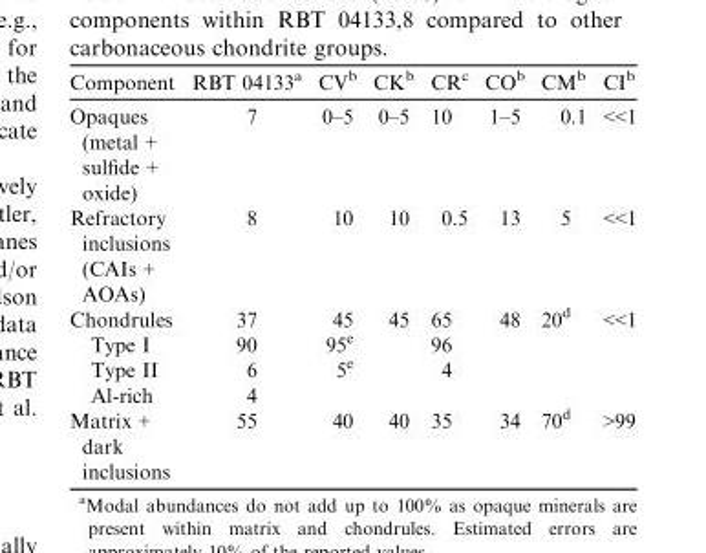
<table><thead><tr><td>Component</td><td>RBT 04133<sup>a</sup></td><td>CV<sup>b</sup></td><td>CK<sup>b</sup></td><td>CR<sup>c</sup></td><td>CO<sup>b</sup></td><td>CM<sup>b</sup></td><td>CI<sup>b</sup></td></tr></thead><tbody><tr><td>Opaques (metal + sulfide + oxide)</td><td>7</td><td>0–5</td><td>0–5</td><td>10</td><td>1–5</td><td>0.1</td><td>&lt;&lt;1</td></tr><tr><td>Refractory inclusions (CAIs + AOAs)</td><td>8</td><td>10</td><td>10</td><td>0.5</td><td>13</td><td>5</td><td>&lt;&lt;1</td></tr><tr><td>Chondrules</td><td>37</td><td>45</td><td>45</td><td>65</td><td>48</td><td>20<sup>d</sup></td><td>&lt;&lt;1</td></tr><tr><td>Type I</td><td>90</td><td>95<sup>e</sup></td><td></td><td>96</td><td></td><td></td><td></td></tr><tr><td>Type II</td><td>6</td><td>5<sup>e</sup></td><td></td><td>4</td><td></td><td></td><td></td></tr><tr><td>Al-rich</td><td>4</td><td></td><td></td><td></td><td></td><td></td><td></td></tr><tr><td>Matrix + dark inclusions</td><td>55</td><td>40</td><td>40</td><td>35</td><td>34</td><td>70<sup>d</sup></td><td>&gt;99</td></tr></tbody></table>